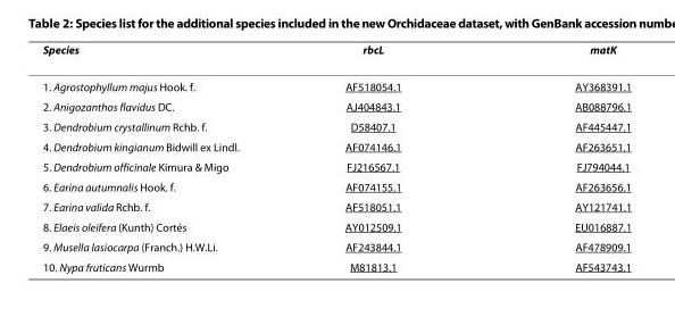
<table><thead><tr><td>Species</td><td>rbcL</td><td>matK</td></tr></thead><tbody><tr><td>1. Agrostophyllum majus Hook. f.</td><td>AF518054.1</td><td>AY368391.1</td></tr><tr><td>2. Anigozanthos flavidus DC.</td><td>AJ404843.1</td><td>AB088796.1</td></tr><tr><td>3. Dendrobium crystallinum Rchb. f.</td><td>D58407.1</td><td>AF445447.1</td></tr><tr><td>4. Dendrobium kingianum Bidwill ex Lindl.</td><td>AF074146.1</td><td>AF263651.1</td></tr><tr><td>5. Dendrobium officinale Kimura &amp; Migo</td><td>FJ216567.1</td><td>FJ794044.1</td></tr><tr><td>6. Earina autumnalis Hook. f.</td><td>AF074155.1</td><td>AF263656.1</td></tr><tr><td>7. Earina valida Rchb. f.</td><td>AF518051.1</td><td>AY121741.1</td></tr><tr><td>8. Elaeis oleifera (Kunth) Cortés</td><td>AY012509.1</td><td>EU016887.1</td></tr><tr><td>9. Musella lasiocarpa (Franch.) H.W.Li.</td><td>AF243844.1</td><td>AF478909.1</td></tr><tr><td>10. Nypa fruticans Wurmb</td><td>M81813.1</td><td>AF543743.1</td></tr></tbody></table>